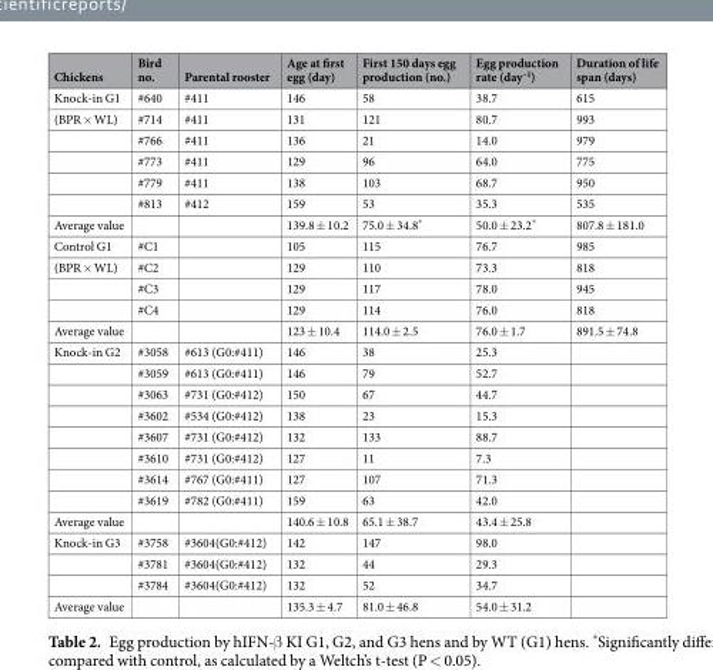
<table><thead><tr><td>Chickens</td><td>Bird no.</td><td>Parental rooster</td><td>Age at first egg (day)</td><td>First 150 days egg production (no.)</td><td>Egg production rate (day<sup>–1</sup>)</td><td>Duration of life span (days)</td></tr></thead><tbody><tr><td>Knock-in G1</td><td>#640</td><td>#411</td><td>146</td><td>58</td><td>38.7</td><td>615</td></tr><tr><td rowspan="5">(BPR × WL)</td><td>#714</td><td>#411</td><td>131</td><td>121</td><td>80.7</td><td>993</td></tr><tr><td>#766</td><td>#411</td><td>136</td><td>21</td><td>14.0</td><td>979</td></tr><tr><td>#773</td><td>#411</td><td>129</td><td>96</td><td>64.0</td><td>775</td></tr><tr><td>#779</td><td>#411</td><td>138</td><td>103</td><td>68.7</td><td>950</td></tr><tr><td>#813</td><td>#412</td><td>159</td><td>53</td><td>35.3</td><td>535</td></tr><tr><td>Average value</td><td></td><td></td><td>139.8 ± 10.2</td><td>75.0 ± 34.8*</td><td>50.0 ± 23.2*</td><td>807.8 ± 181.0</td></tr><tr><td>Control G1</td><td>#C1</td><td></td><td>105</td><td>115</td><td>76.7</td><td>985</td></tr><tr><td rowspan="3">(BPR × WL)</td><td>#C2</td><td></td><td>129</td><td>110</td><td>73.3</td><td>818</td></tr><tr><td>#C3</td><td></td><td>129</td><td>117</td><td>78.0</td><td>945</td></tr><tr><td>#C4</td><td></td><td>129</td><td>114</td><td>76.0</td><td>818</td></tr><tr><td>Average value</td><td></td><td></td><td>123 ± 10.4</td><td>114.0 ± 2.5</td><td>76.0 ± 1.7</td><td>891.5 ± 74.8</td></tr><tr><td rowspan="8">Knock-in G2</td><td>#3058</td><td>#613 (G0:#411)</td><td>146</td><td>38</td><td>25.3</td><td></td></tr><tr><td>#3059</td><td>#613 (G0:#411)</td><td>146</td><td>79</td><td>52.7</td><td></td></tr><tr><td>#3063</td><td>#731 (G0:#412)</td><td>150</td><td>67</td><td>44.7</td><td></td></tr><tr><td>#3602</td><td>#534 (G0:#412)</td><td>138</td><td>23</td><td>15.3</td><td></td></tr><tr><td>#3607</td><td>#731 (G0:#412)</td><td>132</td><td>133</td><td>88.7</td><td></td></tr><tr><td>#3610</td><td>#731 (G0:#412)</td><td>127</td><td>11</td><td>7.3</td><td></td></tr><tr><td>#3614</td><td>#767 (G0:#411)</td><td>127</td><td>107</td><td>71.3</td><td></td></tr><tr><td>#3619</td><td>#782 (G0:#411)</td><td>159</td><td>63</td><td>42.0</td><td></td></tr><tr><td>Average value</td><td></td><td></td><td>140.6 ± 10.8</td><td>65.1 ± 38.7</td><td>43.4 ± 25.8</td><td></td></tr><tr><td rowspan="3">Knock-in G3</td><td>#3758</td><td>#3604(G0:#412)</td><td>142</td><td>147</td><td>98.0</td><td></td></tr><tr><td>#3781</td><td>#3604(G0:#412)</td><td>132</td><td>44</td><td>29.3</td><td></td></tr><tr><td>#3784</td><td>#3604(G0:#412)</td><td>132</td><td>52</td><td>34.7</td><td></td></tr><tr><td>Average value</td><td></td><td></td><td>135.3 ± 4.7</td><td>81.0 ± 46.8</td><td>54.0 ± 31.2</td><td></td></tr></tbody></table>